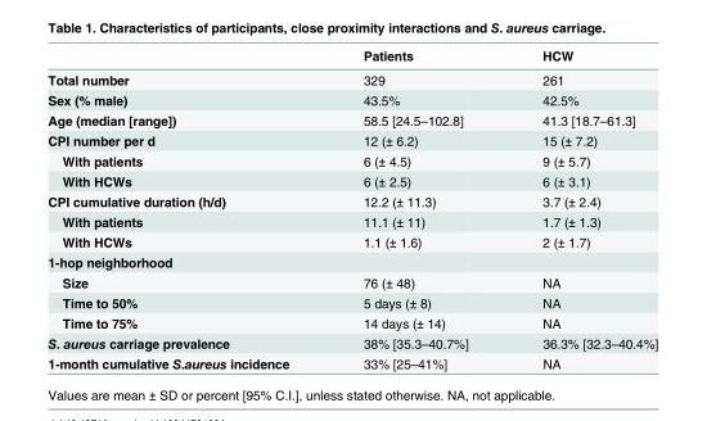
<table><thead><tr><td></td><td>Patients</td><td>HCW</td></tr></thead><tbody><tr><td>Total number</td><td>329</td><td>261</td></tr><tr><td>Sex (% male)</td><td>43.5%</td><td>42.5%</td></tr><tr><td>Age (median [range])</td><td>58.5 [24.5–102.8]</td><td>41.3 [18.7–61.3]</td></tr><tr><td>CPI number per d</td><td>12 (± 6.2)</td><td>15 (± 7.2)</td></tr><tr><td>With patients</td><td>6 (± 4.5)</td><td>9 (± 5.7)</td></tr><tr><td>With HCWs</td><td>6 (± 2.5)</td><td>6 (± 3.1)</td></tr><tr><td>CPI cumulative duration (h/d)</td><td>12.2 (± 11.3)</td><td>3.7 (± 2.4)</td></tr><tr><td>With patients</td><td>11.1 (± 11)</td><td>1.7 (± 1.3)</td></tr><tr><td>With HCWs</td><td>1.1 (± 1.6)</td><td>2 (± 1.7)</td></tr><tr><td colspan="3">1-hop neighborhood</td></tr><tr><td>Size</td><td>76 (± 48)</td><td>NA</td></tr><tr><td>Time to 50%</td><td>5 days (± 8)</td><td>NA</td></tr><tr><td>Time to 75%</td><td>14 days (± 14)</td><td>NA</td></tr><tr><td>S. aureus carriage prevalence</td><td>38% [35.3–40.7%]</td><td>36.3% [32.3–40.4%]</td></tr><tr><td>1-month cumulative S.aureus incidence</td><td>33% [25–41%]</td><td>NA</td></tr></tbody></table>